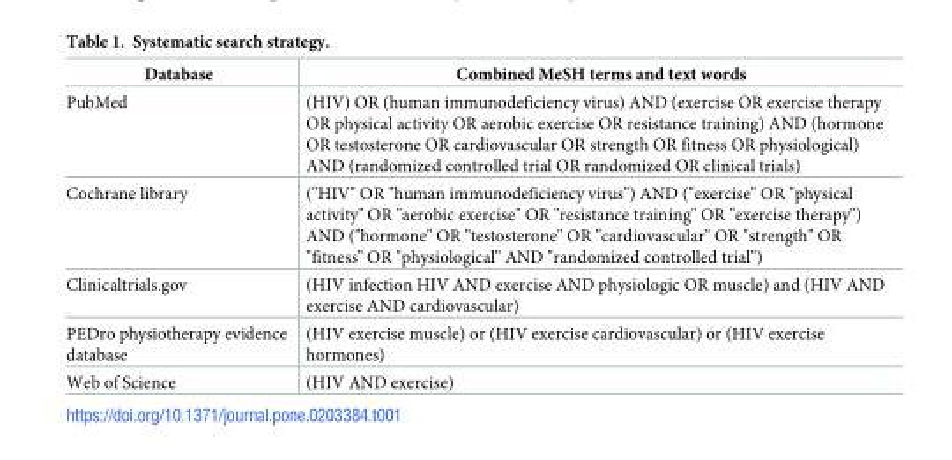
<table><thead><tr><td>Database</td><td>Combined MeSH terms and text words</td></tr></thead><tbody><tr><td>PubMed</td><td>(HIV) OR (human immunodeficiency virus) AND (exercise OR exercise therapy OR physical activity OR aerobic exercise OR resistance training) AND (hormone OR testosterone OR cardiovascular OR strength OR fitness OR physiological) AND (randomized controlled trial OR randomized OR clinical trials)</td></tr><tr><td>Cochrane library</td><td>(&quot;HIV&quot; OR &quot;human immunodeficiency virus&quot;) AND (&quot;exercise&quot; OR &quot;physical activity&quot; OR &quot;aerobic exercise&quot; OR &quot;resistance training&quot; OR &quot;exercise therapy&quot;) AND (&quot;hormone&quot; OR &quot;testosterone&quot; OR &quot;cardiovascular&quot; OR &quot;strength&quot; OR &quot;fitness&quot; OR &quot;physiological&quot; AND &quot;randomized controlled trial&quot;)</td></tr><tr><td>Clinicaltrials.gov</td><td>(HIV infection HIV AND exercise AND physiologic OR muscle) and (HIV AND exercise AND cardiovascular)</td></tr><tr><td>PEDro physiotherapy evidence database</td><td>(HIV exercise muscle) or (HIV exercise cardiovascular) or (HIV exercise hormones)</td></tr><tr><td>Web of Science</td><td>(HIV AND exercise)</td></tr></tbody></table>